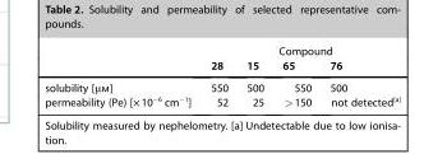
<table><thead><tr><td rowspan="2"></td><td colspan="4">Compound</td></tr><tr><td>28</td><td>15</td><td>65</td><td>76</td></tr></thead><tbody><tr><td>solubility [μm]</td><td>550</td><td>500</td><td>550</td><td>500</td></tr><tr><td>permeability (Pe) [×10<sup>−6</sup> cm<sup>−1</sup>]</td><td>52</td><td>25</td><td>&gt;150</td><td>not detected<sup>[a]</sup></td></tr></tbody></table>